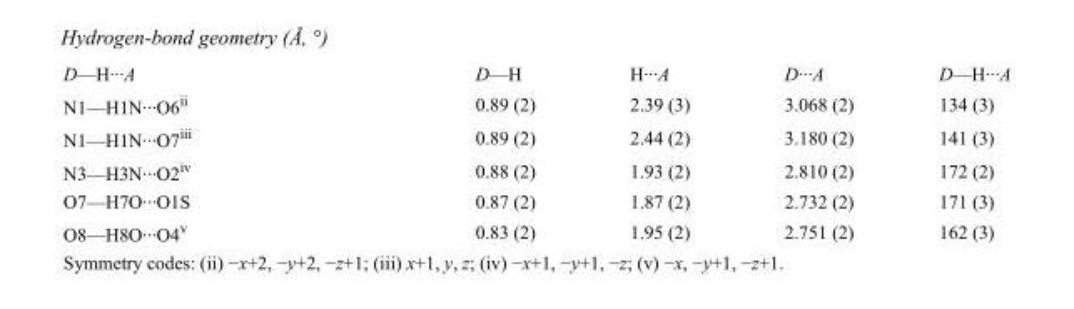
<table><tbody><tr><td>D—H···A</td><td>D—H</td><td>H···A</td><td>D···A</td><td>D—H···A</td></tr><tr><td>N1—H1N···O6<sup>ii</sup></td><td>0.89 (2)</td><td>2.39 (3)</td><td>3.068 (2)</td><td>134 (3)</td></tr><tr><td>N1—H1N···O7<sup>iii</sup></td><td>0.89 (2)</td><td>2.44 (2)</td><td>3.180 (2)</td><td>141 (3)</td></tr><tr><td>N3—H3N···O2<sup>iv</sup></td><td>0.88 (2)</td><td>1.93 (2)</td><td>2.810 (2)</td><td>172 (2)</td></tr><tr><td>O7—H7O···O1S</td><td>0.87 (2)</td><td>1.87 (2)</td><td>2.732 (2)</td><td>171 (3)</td></tr><tr><td>O8—H8O···O4<sup>v</sup></td><td>0.83 (2)</td><td>1.95 (2)</td><td>2.751 (2)</td><td>162 (3)</td></tr></tbody></table>